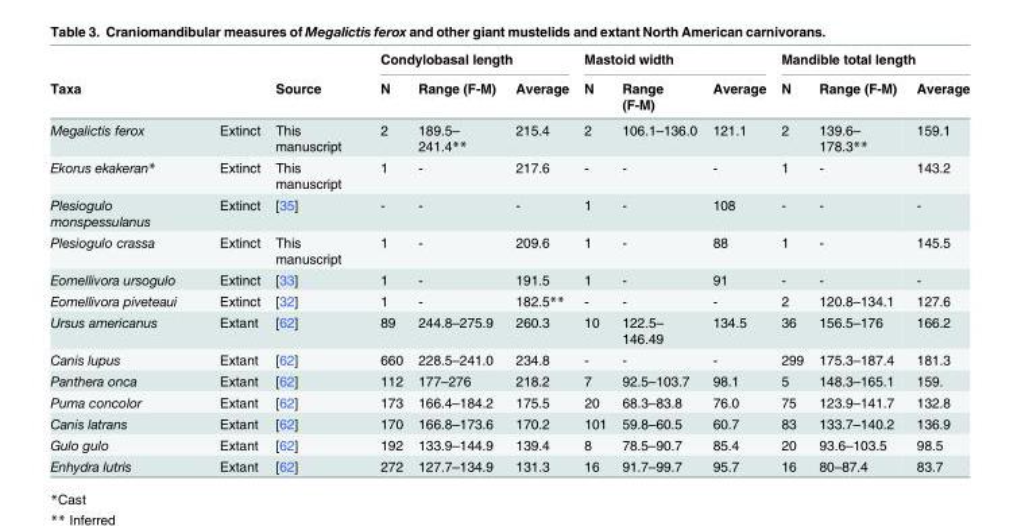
<table><thead><tr><td rowspan="2">Taxa</td><td rowspan="2"></td><td rowspan="2">Source</td><td colspan="3">Condylobasal length</td><td colspan="3">Mastoid width</td><td colspan="3">Mandible total length</td></tr><tr><td>N</td><td>Range (F-M)</td><td>Average</td><td>N</td><td>Range (F-M)</td><td>Average</td><td>N</td><td>Range (F-M)</td><td>Average</td></tr></thead><tbody><tr><td>Megalictis ferox</td><td>Extinct</td><td>This manuscript</td><td>2</td><td>189.5– 241.4**</td><td>215.4</td><td>2</td><td>106.1–136.0</td><td>121.1</td><td>2</td><td>139.6– 178.3**</td><td>159.1</td></tr><tr><td>Ekorus ekakeran*</td><td>Extinct</td><td>This manuscript</td><td>1</td><td>-</td><td>217.6</td><td>-</td><td>-</td><td>-</td><td>1</td><td>-</td><td>143.2</td></tr><tr><td>Plesiogulo monspessulanus</td><td>Extinct</td><td>[35]</td><td>-</td><td>-</td><td>-</td><td>1</td><td>-</td><td>108</td><td>-</td><td>-</td><td>-</td></tr><tr><td>Plesiogulo crassa</td><td>Extinct</td><td>This manuscript</td><td>1</td><td>-</td><td>209.6</td><td>1</td><td>-</td><td>88</td><td>1</td><td>-</td><td>145.5</td></tr><tr><td>Eomellivora ursogulo</td><td>Extinct</td><td>[33]</td><td>1</td><td>-</td><td>191.5</td><td>1</td><td>-</td><td>91</td><td>-</td><td>-</td><td>-</td></tr><tr><td>Eomellivora piveteaui</td><td>Extinct</td><td>[32]</td><td>1</td><td>-</td><td>182.5**</td><td>-</td><td>-</td><td>-</td><td>2</td><td>120.8–134.1</td><td>127.6</td></tr><tr><td>Ursus americanus</td><td>Extant</td><td>[62]</td><td>89</td><td>244.8–275.9</td><td>260.3</td><td>10</td><td>122.5– 146.49</td><td>134.5</td><td>36</td><td>156.5–176</td><td>166.2</td></tr><tr><td>Canis lupus</td><td>Extant</td><td>[62]</td><td>660</td><td>228.5–241.0</td><td>234.8</td><td>-</td><td>-</td><td>-</td><td>299</td><td>175.3–187.4</td><td>181.3</td></tr><tr><td>Panthera onca</td><td>Extant</td><td>[62]</td><td>112</td><td>177–276</td><td>218.2</td><td>7</td><td>92.5–103.7</td><td>98.1</td><td>5</td><td>148.3–165.1</td><td>159.</td></tr><tr><td>Puma concolor</td><td>Extant</td><td>[62]</td><td>173</td><td>166.4–184.2</td><td>175.5</td><td>20</td><td>68.3–83.8</td><td>76.0</td><td>75</td><td>123.9–141.7</td><td>132.8</td></tr><tr><td>Canis latrans</td><td>Extant</td><td>[62]</td><td>170</td><td>166.8–173.6</td><td>170.2</td><td>101</td><td>59.8–60.5</td><td>60.7</td><td>83</td><td>133.7–140.2</td><td>136.9</td></tr><tr><td>Gulo gulo</td><td>Extant</td><td>[62]</td><td>192</td><td>133.9–144.9</td><td>139.4</td><td>8</td><td>78.5–90.7</td><td>85.4</td><td>20</td><td>93.6–103.5</td><td>98.5</td></tr><tr><td>Enhydra lutris</td><td>Extant</td><td>[62]</td><td>272</td><td>127.7–134.9</td><td>131.3</td><td>16</td><td>91.7–99.7</td><td>95.7</td><td>16</td><td>80–87.4</td><td>83.7</td></tr></tbody></table>